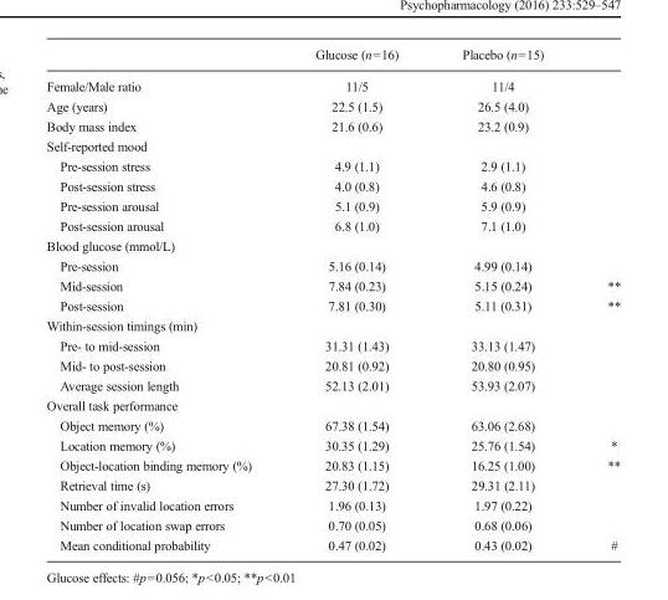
<table><thead><tr><td></td><td>Glucose (n=16)</td><td>Placebo (n=15)</td><td></td></tr></thead><tbody><tr><td>Female/Male ratio</td><td>11/5</td><td>11/4</td><td></td></tr><tr><td>Age (years)</td><td>22.5 (1.5)</td><td>26.5 (4.0)</td><td></td></tr><tr><td>Body mass index</td><td>21.6 (0.6)</td><td>23.2 (0.9)</td><td></td></tr><tr><td colspan="4">Self-reported mood</td></tr><tr><td>Pre-session stress</td><td>4.9 (1.1)</td><td>2.9 (1.1)</td><td></td></tr><tr><td>Post-session stress</td><td>4.0 (0.8)</td><td>4.6 (0.8)</td><td></td></tr><tr><td>Pre-session arousal</td><td>5.1 (0.9)</td><td>5.9 (0.9)</td><td></td></tr><tr><td>Post-session arousal</td><td>6.8 (1.0)</td><td>7.1 (1.0)</td><td></td></tr><tr><td colspan="4">Blood glucose (mmol/L)</td></tr><tr><td>Pre-session</td><td>5.16 (0.14)</td><td>4.99 (0.14)</td><td></td></tr><tr><td>Mid-session</td><td>7.84 (0.23)</td><td>5.15 (0.24)</td><td>**</td></tr><tr><td>Post-session</td><td>7.81 (0.30)</td><td>5.11 (0.31)</td><td>**</td></tr><tr><td colspan="4">Within-session timings (min)</td></tr><tr><td>Pre- to mid-session</td><td>31.31 (1.43)</td><td>33.13 (1.47)</td><td></td></tr><tr><td>Mid- to post-session</td><td>20.81 (0.92)</td><td>20.80 (0.95)</td><td></td></tr><tr><td>Average session length</td><td>52.13 (2.01)</td><td>53.93 (2.07)</td><td></td></tr><tr><td colspan="4">Overall task performance</td></tr><tr><td>Object memory (%)</td><td>67.38 (1.54)</td><td>63.06 (2.68)</td><td></td></tr><tr><td>Location memory (%)</td><td>30.35 (1.29)</td><td>25.76 (1.54)</td><td>*</td></tr><tr><td>Object-location binding memory (%)</td><td>20.83 (1.15)</td><td>16.25 (1.00)</td><td>**</td></tr><tr><td>Retrieval time (s)</td><td>27.30 (1.72)</td><td>29.31 (2.11)</td><td></td></tr><tr><td>Number of invalid location errors</td><td>1.96 (0.13)</td><td>1.97 (0.22)</td><td></td></tr><tr><td>Number of location swap errors</td><td>0.70 (0.05)</td><td>0.68 (0.06)</td><td></td></tr><tr><td>Mean conditional probability</td><td>0.47 (0.02)</td><td>0.43 (0.02)</td><td>#</td></tr></tbody></table>